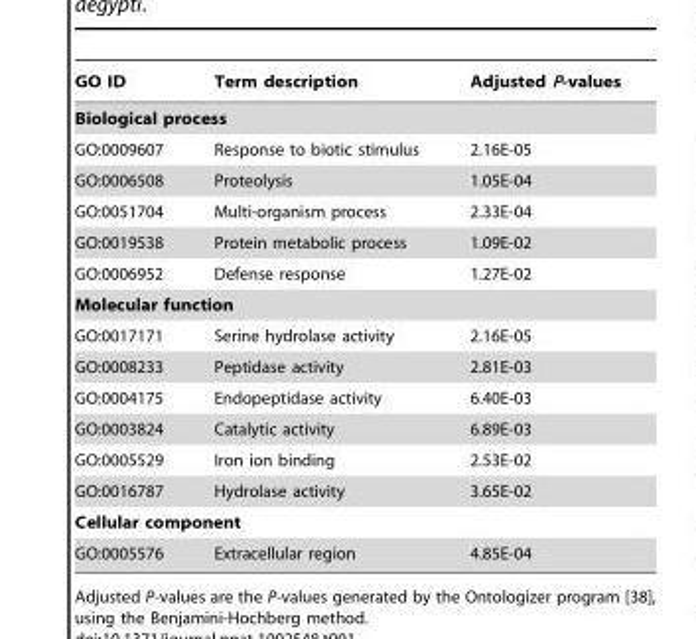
<table><thead><tr><td>GO ID</td><td>Term description</td><td>Adjusted P-values</td></tr></thead><tbody><tr><td colspan="3">Biological process</td></tr><tr><td>GO:0009607</td><td>Response to biotic stimulus</td><td>2.16E-05</td></tr><tr><td>GO:0006508</td><td>Proteolysis</td><td>1.05E-04</td></tr><tr><td>GO:0051704</td><td>Multi-organism process</td><td>2.33E-04</td></tr><tr><td>GO:0019538</td><td>Protein metabolic process</td><td>1.09E-02</td></tr><tr><td>GO:0006952</td><td>Defense response</td><td>1.27E-02</td></tr><tr><td colspan="3">Molecular function</td></tr><tr><td>GO:0017171</td><td>Serine hydrolase activity</td><td>2.16E-05</td></tr><tr><td>GO:0008233</td><td>Peptidase activity</td><td>2.81E-03</td></tr><tr><td>GO:0004175</td><td>Endopeptidase activity</td><td>6.40E-03</td></tr><tr><td>GO:0003824</td><td>Catalytic activity</td><td>6.89E-03</td></tr><tr><td>GO:0005529</td><td>Iron ion binding</td><td>2.53E-02</td></tr><tr><td>GO:0016787</td><td>Hydrolase activity</td><td>3.65E-02</td></tr><tr><td colspan="3">Cellular component</td></tr><tr><td>GO:0005576</td><td>Extracellular region</td><td>4.85E-04</td></tr></tbody></table>